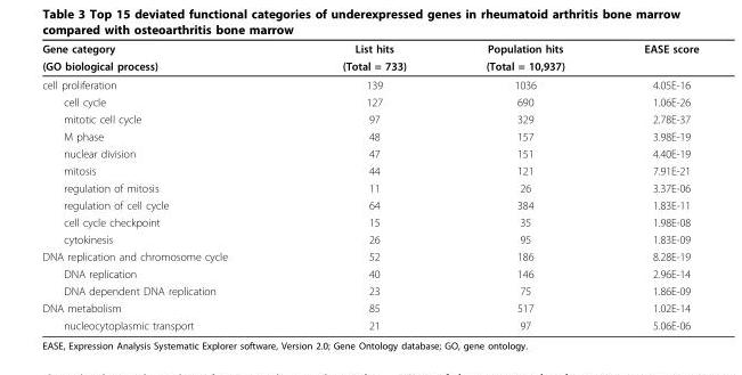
<table><thead><tr><td rowspan="2">Gene category (GO biological process)</td><td rowspan="2">List hits (Total = 733)</td><td rowspan="2">Population hits (Total = 10,937)</td><td rowspan="2">EASE score</td></tr><tr></tr></thead><tbody><tr><td>cell proliferation</td><td>139</td><td>1036</td><td>4.05E-16</td></tr><tr><td>cell cycle</td><td>127</td><td>690</td><td>1.06E-26</td></tr><tr><td>mitotic cell cycle</td><td>97</td><td>329</td><td>2.78E-37</td></tr><tr><td>M phase</td><td>48</td><td>157</td><td>3.98E-19</td></tr><tr><td>nuclear division</td><td>47</td><td>151</td><td>4.40E-19</td></tr><tr><td>mitosis</td><td>44</td><td>121</td><td>7.91E-21</td></tr><tr><td>regulation of mitosis</td><td>11</td><td>26</td><td>3.37E-06</td></tr><tr><td>regulation of cell cycle</td><td>64</td><td>384</td><td>1.83E-11</td></tr><tr><td>cell cycle checkpoint</td><td>15</td><td>35</td><td>1.98E-08</td></tr><tr><td>cytokinesis</td><td>26</td><td>95</td><td>1.83E-09</td></tr><tr><td>DNA replication and chromosome cycle</td><td>52</td><td>186</td><td>8.28E-19</td></tr><tr><td>DNA replication</td><td>40</td><td>146</td><td>2.96E-14</td></tr><tr><td>DNA dependent DNA replication</td><td>23</td><td>75</td><td>1.86E-09</td></tr><tr><td>DNA metabolism</td><td>85</td><td>517</td><td>1.02E-14</td></tr><tr><td>nucleocytoplasmic transport</td><td>21</td><td>97</td><td>5.06E-06</td></tr></tbody></table>